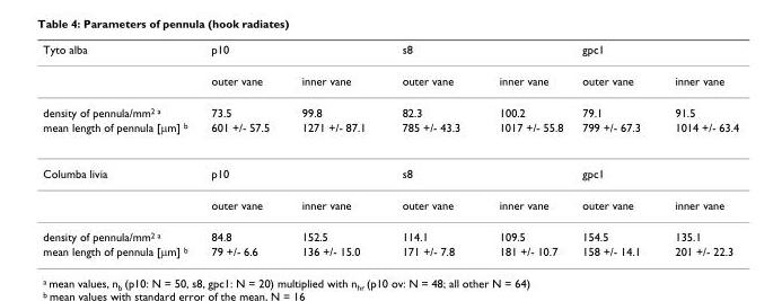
<table><thead><tr><td>Tyto alba</td><td>p10</td><td></td><td>s8</td><td></td><td>gpc1</td><td></td></tr></thead><tbody><tr><td></td><td>outer vane</td><td>inner vane</td><td>outer vane</td><td>inner vane</td><td>outer vane</td><td>inner vane</td></tr><tr><td>density of pennula/mm<sup>2 a</sup></td><td>73.5</td><td>99.8</td><td>82.3</td><td>100.2</td><td>79.1</td><td>91.5</td></tr><tr><td>mean length of pennula [μm] <sup>b</sup></td><td>601 +/- 57.5</td><td>1271 +/- 87.1</td><td>785 +/- 43.3</td><td>1017 +/- 55.8</td><td>799 +/- 67.3</td><td>1014 +/- 63.4</td></tr><tr><td rowspan="2">Columba livia</td><td>p10</td><td></td><td>s8</td><td></td><td>gpc1</td><td></td></tr><tr><td>outer vane</td><td>inner vane</td><td>outer vane</td><td>inner vane</td><td>outer vane</td><td>inner vane</td></tr><tr><td>density of pennula/mm<sup>2 a</sup></td><td>84.8</td><td>152.5</td><td>114.1</td><td>109.5</td><td>154.5</td><td>135.1</td></tr><tr><td>mean length of pennula [μm] <sup>b</sup></td><td>79 +/- 6.6</td><td>136 +/- 15.0</td><td>171 +/- 7.8</td><td>181 +/- 10.7</td><td>158 +/- 14.1</td><td>201 +/- 22.3</td></tr></tbody></table>